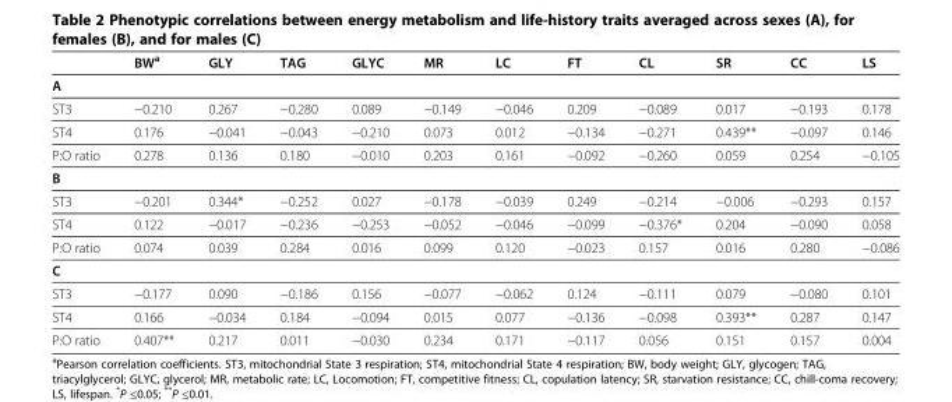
<table><thead><tr><td></td><td>BW<sup>a</sup></td><td>GLY</td><td>TAG</td><td>GLYC</td><td>MR</td><td>LC</td><td>FT</td><td>CL</td><td>SR</td><td>CC</td><td>LS</td></tr></thead><tbody><tr><td colspan="12">A</td></tr><tr><td>ST3</td><td>−0.210</td><td>0.267</td><td>−0.280</td><td>0.089</td><td>−0.149</td><td>−0.046</td><td>0.209</td><td>−0.089</td><td>0.017</td><td>−0.193</td><td>0.178</td></tr><tr><td>ST4</td><td>0.176</td><td>−0.041</td><td>−0.043</td><td>−0.210</td><td>0.073</td><td>0.012</td><td>−0.134</td><td>−0.271</td><td>0.439**</td><td>−0.097</td><td>0.146</td></tr><tr><td>P:O ratio</td><td>0.278</td><td>0.136</td><td>0.180</td><td>−0.010</td><td>0.203</td><td>0.161</td><td>−0.092</td><td>−0.260</td><td>0.059</td><td>0.254</td><td>−0.105</td></tr><tr><td colspan="12">B</td></tr><tr><td>ST3</td><td>−0.201</td><td>0.344*</td><td>−0.252</td><td>0.027</td><td>−0.178</td><td>−0.039</td><td>0.249</td><td>−0.214</td><td>−0.006</td><td>−0.293</td><td>0.157</td></tr><tr><td>ST4</td><td>0.122</td><td>−0.017</td><td>−0.236</td><td>−0.253</td><td>−0.052</td><td>−0.046</td><td>−0.099</td><td>−0.376*</td><td>0.204</td><td>−0.090</td><td>0.058</td></tr><tr><td>P:O ratio</td><td>0.074</td><td>0.039</td><td>0.284</td><td>0.016</td><td>0.099</td><td>0.120</td><td>−0.023</td><td>0.157</td><td>0.016</td><td>0.280</td><td>−0.086</td></tr><tr><td colspan="12">C</td></tr><tr><td>ST3</td><td>−0.177</td><td>0.090</td><td>−0.186</td><td>0.156</td><td>−0.077</td><td>−0.062</td><td>0.124</td><td>−0.111</td><td>0.079</td><td>−0.080</td><td>0.101</td></tr><tr><td>ST4</td><td>0.166</td><td>−0.034</td><td>0.184</td><td>−0.094</td><td>0.015</td><td>0.077</td><td>−0.136</td><td>−0.098</td><td>0.393**</td><td>0.287</td><td>0.147</td></tr><tr><td>P:O ratio</td><td>0.407**</td><td>0.217</td><td>0.011</td><td>−0.030</td><td>0.234</td><td>0.171</td><td>−0.117</td><td>0.056</td><td>0.151</td><td>0.157</td><td>0.004</td></tr></tbody></table>